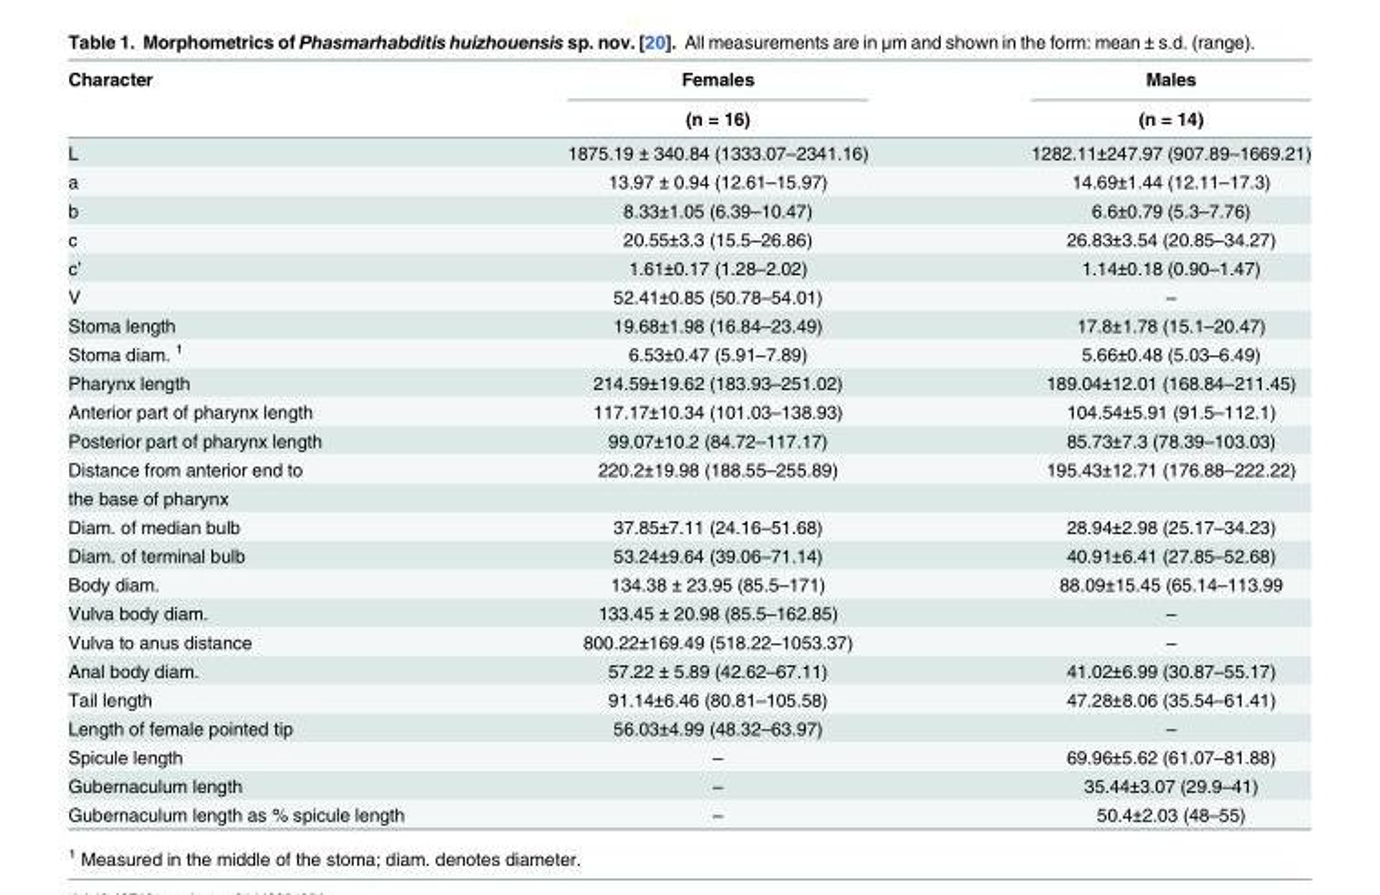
<table><thead><tr><td rowspan="2">Character</td><td rowspan="2">Females (n = 16)</td><td rowspan="2">Males (n = 14)</td></tr><tr></tr></thead><tbody><tr><td>L</td><td>1875.19 ± 340.84 (1333.07–2341.16)</td><td>1282.11±247.97 (907.89–1669.21)</td></tr><tr><td>a</td><td>13.97 ± 0.94 (12.61–15.97)</td><td>14.69±1.44 (12.11–17.3)</td></tr><tr><td>b</td><td>8.33±1.05 (6.39–10.47)</td><td>6.6±0.79 (5.3–7.76)</td></tr><tr><td>c</td><td>20.55±3.3 (15.5–26.86)</td><td>26.83±3.54 (20.85–34.27)</td></tr><tr><td>c’</td><td>1.61±0.17 (1.28–2.02)</td><td>1.14±0.18 (0.90–1.47)</td></tr><tr><td>V</td><td>52.41±0.85 (50.78–54.01)</td><td>–</td></tr><tr><td>Stoma length</td><td>19.68±1.98 (16.84–23.49)</td><td>17.8±1.78 (15.1–20.47)</td></tr><tr><td>Stoma diam. <sup>1</sup></td><td>6.53±0.47 (5.91–7.89)</td><td>5.66±0.48 (5.03–6.49)</td></tr><tr><td>Pharynx length</td><td>214.59±19.62 (183.93–251.02)</td><td>189.04±12.01 (168.84–211.45)</td></tr><tr><td>Anterior part of pharynx length</td><td>117.17±10.34 (101.03–138.93)</td><td>104.54±5.91 (91.5–112.1)</td></tr><tr><td>Posterior part of pharynx length</td><td>99.07±10.2 (84.72–117.17)</td><td>85.73±7.3 (78.39–103.03)</td></tr><tr><td>Distance from anterior end to</td><td>220.2±19.98 (188.55–255.89)</td><td>195.43±12.71 (176.88–222.22)</td></tr><tr><td colspan="3">the base of pharynx</td></tr><tr><td>Diam. of median bulb</td><td>37.85±7.11 (24.16–51.68)</td><td>28.94±2.98 (25.17–34.23)</td></tr><tr><td>Diam. of terminal bulb</td><td>53.24±9.64 (39.06–71.14)</td><td>40.91±6.41 (27.85–52.68)</td></tr><tr><td>Body diam.</td><td>134.38 ± 23.95 (85.5–171)</td><td>88.09±15.45 (65.14–113.99</td></tr><tr><td>Vulva body diam.</td><td>133.45 ± 20.98 (85.5–162.85)</td><td>–</td></tr><tr><td>Vulva to anus distance</td><td>800.22±169.49 (518.22–1053.37)</td><td>–</td></tr><tr><td>Anal body diam.</td><td>57.22 ± 5.89 (42.62–67.11)</td><td>41.02±6.99 (30.87–55.17)</td></tr><tr><td>Tail length</td><td>91.14±6.46 (80.81–105.58)</td><td>47.28±8.06 (35.54–61.41)</td></tr><tr><td>Length of female pointed tip</td><td>56.03±4.99 (48.32–63.97)</td><td>–</td></tr><tr><td>Spicule length</td><td>–</td><td>69.96±5.62 (61.07–81.88)</td></tr><tr><td>Gubernaculum length</td><td>–</td><td>35.44±3.07 (29.9–41)</td></tr><tr><td>Gubernaculum length as % spicule length</td><td>–</td><td>50.4±2.03 (48–55)</td></tr></tbody></table>